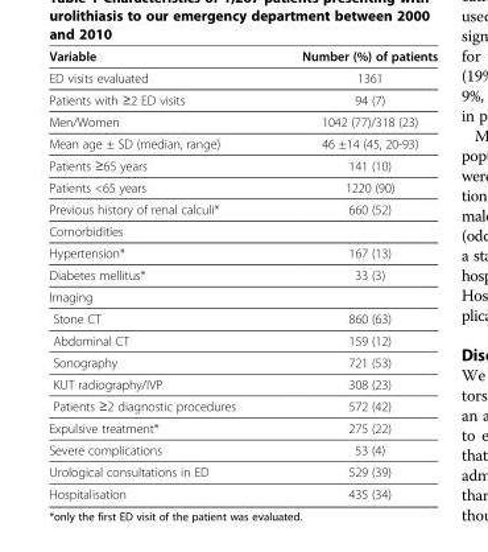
<table><thead><tr><td>Variable</td><td>Number (%) of patients</td></tr></thead><tbody><tr><td>ED visits evaluated</td><td>1361</td></tr><tr><td>Patients with ≥2 ED visits</td><td>94 (7)</td></tr><tr><td>Men/Women</td><td>1042 (77)/318 (23)</td></tr><tr><td>Mean age ± SD (median, range)</td><td>46 ±14 (45, 20-93)</td></tr><tr><td>Patients ≥65 years</td><td>141 (10)</td></tr><tr><td>Patients &lt;65 years</td><td>1220 (90)</td></tr><tr><td>Previous history of renal calculi*</td><td>660 (52)</td></tr><tr><td colspan="2">Comorbidities</td></tr><tr><td>Hypertension*</td><td>167 (13)</td></tr><tr><td>Diabetes mellitus*</td><td>33 (3)</td></tr><tr><td colspan="2">Imaging</td></tr><tr><td>Stone CT</td><td>860 (63)</td></tr><tr><td>Abdominal CT</td><td>159 (12)</td></tr><tr><td>Sonography</td><td>721 (53)</td></tr><tr><td>KUT radiography/IVP</td><td>308 (23)</td></tr><tr><td>Patients ≥2 diagnostic procedures</td><td>572 (42)</td></tr><tr><td>Expulsive treatment*</td><td>275 (22)</td></tr><tr><td>Severe complications</td><td>53 (4)</td></tr><tr><td>Urological consultations in ED</td><td>529 (39)</td></tr><tr><td>Hospitalisation</td><td>435 (34)</td></tr></tbody></table>